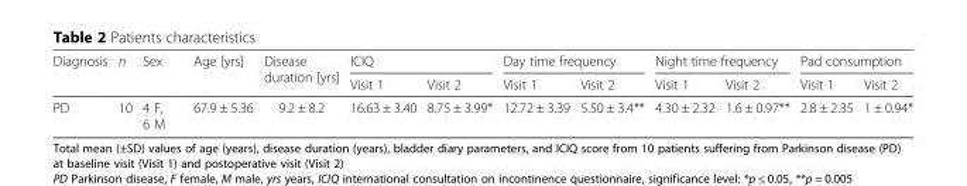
<table><thead><tr><td rowspan="2">Diagnosis</td><td rowspan="2">n</td><td rowspan="2">Sex</td><td rowspan="2">Age [yrs]</td><td rowspan="2">Disease duration [yrs]</td><td colspan="2">ICIQ</td><td colspan="2">Day time frequency</td><td colspan="2">Night time frequency</td><td colspan="2">Pad consumption</td></tr><tr><td>Visit 1</td><td>Visit 2</td><td>Visit 1</td><td>Visit 2</td><td>Visit 1</td><td>Visit 2</td><td>Visit 1</td><td>Visit 2</td></tr></thead><tbody><tr><td>PD</td><td>10</td><td>4 F, 6 M</td><td>67.9 ± 5.36</td><td>9.2 ± 8.2</td><td>16.63 ± 3.40</td><td>8.75 ± 3.99*</td><td>12.72 ± 3.39</td><td>5.50 ± 3.4**</td><td>4.30 ± 2.32</td><td>1.6 ± 0.97**</td><td>2.8 ± 2.35</td><td>1 ± 0.94*</td></tr></tbody></table>